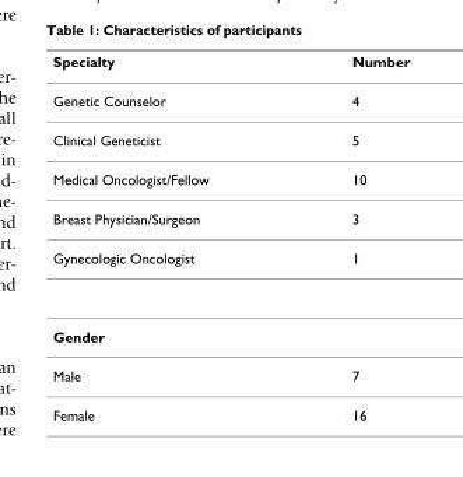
<table><thead><tr><td>Specialty</td><td>Number</td></tr></thead><tbody><tr><td>Genetic Counselor</td><td>4</td></tr><tr><td>Clinical Geneticist</td><td>5</td></tr><tr><td>Medical Oncologist/Fellow</td><td>10</td></tr><tr><td>Breast Physician/Surgeon</td><td>3</td></tr><tr><td>Gynecologic Oncologist</td><td>1</td></tr><tr><td colspan="2">Gender</td></tr><tr><td>Male</td><td>7</td></tr><tr><td>Female</td><td>16</td></tr></tbody></table>